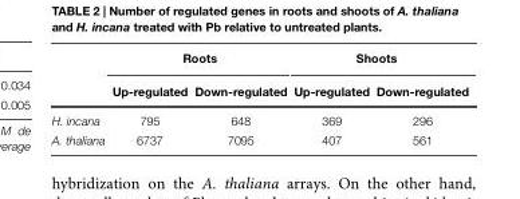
<table><thead><tr><td rowspan="2"></td><td colspan="2">Roots</td><td colspan="2">Shoots</td></tr><tr><td>Up-regulated</td><td>Down-regulated</td><td>Up-regulated</td><td>Down-regulated</td></tr></thead><tbody><tr><td>H. incana</td><td>795</td><td>648</td><td>369</td><td>296</td></tr><tr><td>A. thaliana</td><td>6737</td><td>7095</td><td>407</td><td>561</td></tr></tbody></table>